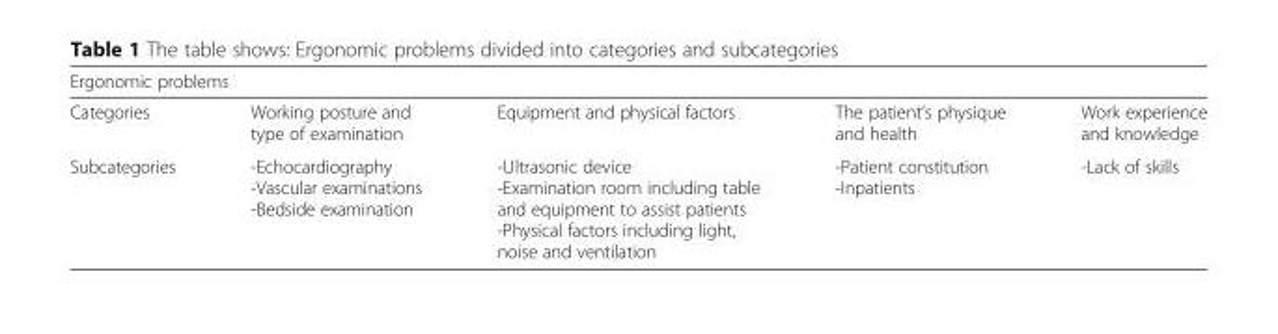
<table><thead><tr><td colspan="5">Ergonomic problems</td></tr><tr><td>Categories</td><td>Working posture and type of examination</td><td>Equipment and physical factors</td><td>The patient’s physique and health</td><td>Work experience and knowledge</td></tr></thead><tbody><tr><td>Subcategories</td><td>-Echocardiography -Vascular examinations -Bedside examination</td><td>-Ultrasonic device -Examination room including table and equipment to assist patients -Physical factors including light, noise and ventilation</td><td>-Patient constitution -Inpatients</td><td>-Lack of skills</td></tr></tbody></table>